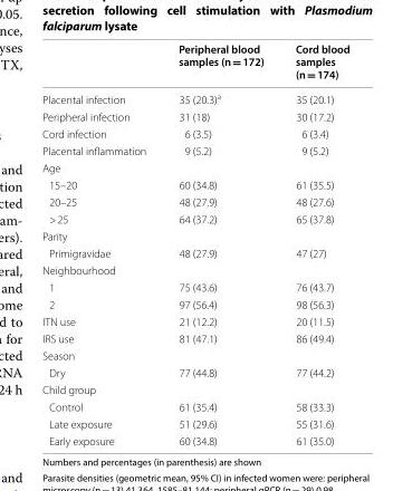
<table><thead><tr><td></td><td>Peripheral blood samples (n = 172)</td><td>Cord blood samples (n = 174)</td></tr></thead><tbody><tr><td>Placental infection</td><td>35 (20.3)<sup>a</sup></td><td>35 (20.1)</td></tr><tr><td>Peripheral infection</td><td>31 (18)</td><td>30 (17.2)</td></tr><tr><td>Cord infection</td><td>6 (3.5)</td><td>6 (3.4)</td></tr><tr><td>Placental inflammation</td><td>9 (5.2)</td><td>9 (5.2)</td></tr><tr><td colspan="3">Age</td></tr><tr><td>15–20</td><td>60 (34.8)</td><td>61 (35.5)</td></tr><tr><td>20–25</td><td>48 (27.9)</td><td>48 (27.6)</td></tr><tr><td>&gt; 25</td><td>64 (37.2)</td><td>65 (37.8)</td></tr><tr><td colspan="3">Parity</td></tr><tr><td>Primigravidae</td><td>48 (27.9)</td><td>47 (27)</td></tr><tr><td colspan="3">Neighbourhood</td></tr><tr><td>1</td><td>75 (43.6)</td><td>76 (43.7)</td></tr><tr><td>2</td><td>97 (56.4)</td><td>98 (56.3)</td></tr><tr><td>ITN use</td><td>21 (12.2)</td><td>20 (11.5)</td></tr><tr><td>IRS use</td><td>81 (47.1)</td><td>86 (49.4)</td></tr><tr><td colspan="3">Season</td></tr><tr><td>Dry</td><td>77 (44.8)</td><td>77 (44.2)</td></tr><tr><td colspan="3">Child group</td></tr><tr><td>Control</td><td>61 (35.4)</td><td>58 (33.3)</td></tr><tr><td>Late exposure</td><td>51 (29.6)</td><td>55 (31.6)</td></tr><tr><td>Early exposure</td><td>60 (34.8)</td><td>61 (35.0)</td></tr></tbody></table>